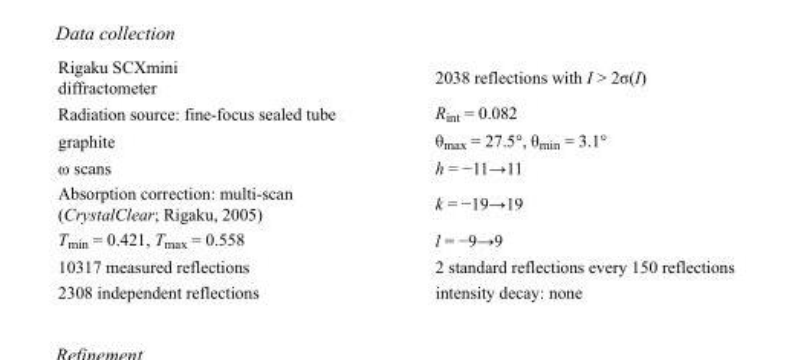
<table><tbody><tr><td>Rigaku SCXmini diffractometer</td><td>2038 reflections with I &gt; 2σ(I)</td></tr><tr><td>Radiation source: fine-focus sealed tube</td><td>R<sub>int</sub> = 0.082</td></tr><tr><td>graphite</td><td>θ<sub>max</sub> = 27.5°, θ<sub>min</sub> = 3.1°</td></tr><tr><td>ω scans</td><td>h = −11→11</td></tr><tr><td>Absorption correction: multi-scan (CrystalClear; Rigaku, 2005)</td><td>k = −19→19</td></tr><tr><td>T<sub>min</sub> = 0.421, T<sub>max</sub> = 0.558</td><td>l = −9→9</td></tr><tr><td>10317 measured reflections</td><td>2 standard reflections every 150 reflections</td></tr><tr><td>2308 independent reflections</td><td>intensity decay: none</td></tr></tbody></table>